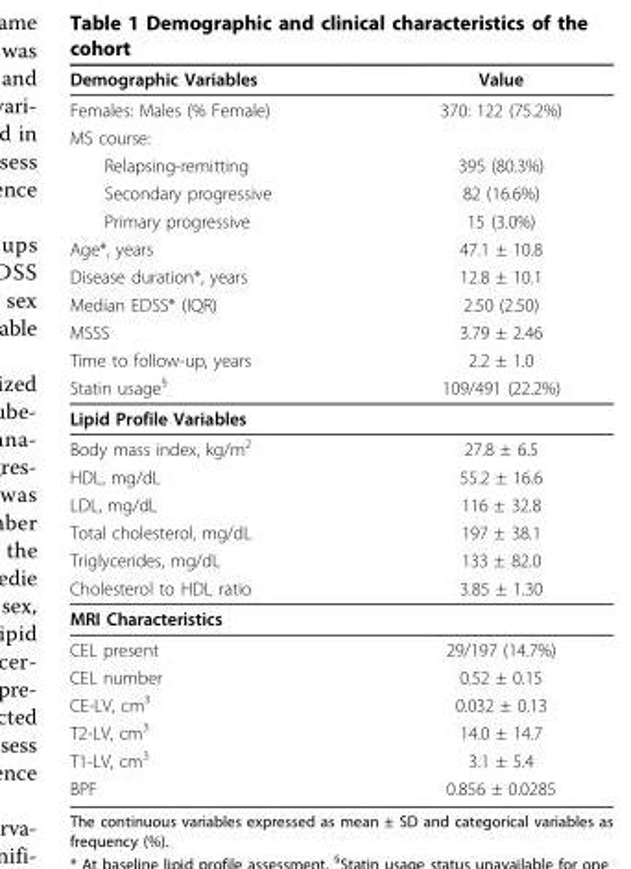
<table><thead><tr><td>Demographic Variables</td><td>Value</td></tr></thead><tbody><tr><td>Females: Males (% Female)</td><td>370: 122 (75.2%)</td></tr><tr><td colspan="2">MS course:</td></tr><tr><td>Relapsing-remitting</td><td>395 (80.3%)</td></tr><tr><td>Secondary progressive</td><td>82 (16.6%)</td></tr><tr><td>Primary progressive</td><td>15 (3.0%)</td></tr><tr><td>Age*, years</td><td>47.1 ± 10.8</td></tr><tr><td>Disease duration*, years</td><td>12.8 ± 10.1</td></tr><tr><td>Median EDSS* (IQR)</td><td>2.50 (2.50)</td></tr><tr><td>MSSS</td><td>3.79 ± 2.46</td></tr><tr><td>Time to follow-up, years</td><td>2.2 ± 1.0</td></tr><tr><td>Statin usage<sup>§</sup></td><td>109/491 (22.2%)</td></tr><tr><td colspan="2">Lipid Profile Variables</td></tr><tr><td>Body mass index, kg/m<sup>2</sup></td><td>27.8 ± 6.5</td></tr><tr><td>HDL, mg/dL</td><td>55.2 ± 16.6</td></tr><tr><td>LDL, mg/dL</td><td>116 ± 32.8</td></tr><tr><td>Total cholesterol, mg/dL</td><td>197 ± 38.1</td></tr><tr><td>Triglycerides, mg/dL</td><td>133 ± 82.0</td></tr><tr><td>Cholesterol to HDL ratio</td><td>3.85 ± 1.30</td></tr><tr><td colspan="2">MRI Characteristics</td></tr><tr><td>CEL present</td><td>29/197 (14.7%)</td></tr><tr><td>CEL number</td><td>0.52 ± 0.15</td></tr><tr><td>CE-LV, cm<sup>3</sup></td><td>0.032 ± 0.13</td></tr><tr><td>T2-LV, cm<sup>3</sup></td><td>14.0 ± 14.7</td></tr><tr><td>T1-LV, cm<sup>3</sup></td><td>3.1 ± 5.4</td></tr><tr><td>BPF</td><td>0.856 ± 0.0285</td></tr></tbody></table>